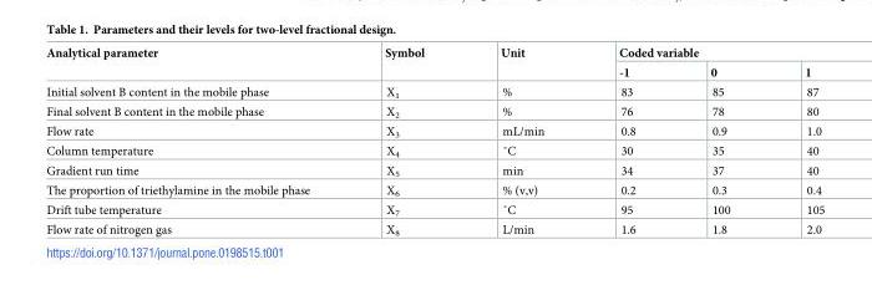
<table><thead><tr><td rowspan="2">Analytical parameter</td><td rowspan="2">Symbol</td><td rowspan="2">Unit</td><td colspan="3">Coded variable</td></tr><tr><td>-1</td><td>0</td><td>1</td></tr></thead><tbody><tr><td>Initial solvent B content in the mobile phase</td><td>X<sub>1</sub></td><td>%</td><td>83</td><td>85</td><td>87</td></tr><tr><td>Final solvent B content in the mobile phase</td><td>X<sub>2</sub></td><td>%</td><td>76</td><td>78</td><td>80</td></tr><tr><td>Flow rate</td><td>X<sub>3</sub></td><td>mL/min</td><td>0.8</td><td>0.9</td><td>1.0</td></tr><tr><td>Column temperature</td><td>X<sub>4</sub></td><td>˚C</td><td>30</td><td>35</td><td>40</td></tr><tr><td>Gradient run time</td><td>X<sub>5</sub></td><td>min</td><td>34</td><td>37</td><td>40</td></tr><tr><td>The proportion of triethylamine in the mobile phase</td><td>X<sub>6</sub></td><td>% (v,v)</td><td>0.2</td><td>0.3</td><td>0.4</td></tr><tr><td>Drift tube temperature</td><td>X<sub>7</sub></td><td>˚C</td><td>95</td><td>100</td><td>105</td></tr><tr><td>Flow rate of nitrogen gas</td><td>X<sub>8</sub></td><td>L/min</td><td>1.6</td><td>1.8</td><td>2.0</td></tr></tbody></table>